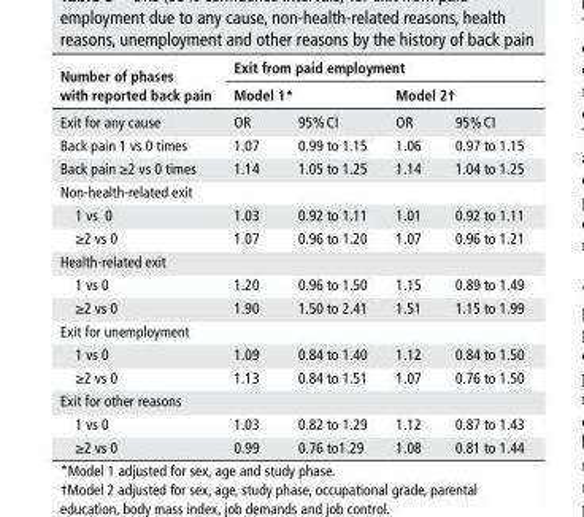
<table><thead><tr><td rowspan="3">number of phases with reported back pain Exit for any cause</td><td colspan="4">exit from paid employment</td></tr><tr><td colspan="2">Model 1*</td><td colspan="2">Model 2†</td></tr><tr><td>OR</td><td>95% CI</td><td>OR</td><td>95% CI</td></tr></thead><tbody><tr><td>Back pain 1 vs 0 times</td><td>1.07</td><td>0.99 to 1.15</td><td>1.06</td><td>0.97 to 1.15</td></tr><tr><td>Back pain ≥2 vs 0 times</td><td>1.14</td><td>1.05 to 1.25</td><td>1.14</td><td>1.04 to 1.25</td></tr><tr><td colspan="5">Non-health-related exit</td></tr><tr><td>1 vs 0</td><td>1.03</td><td>0.92 to 1.11</td><td>1.01</td><td>0.92 to 1.11</td></tr><tr><td>≥2 vs 0</td><td>1.07</td><td>0.96 to 1.20</td><td>1.07</td><td>0.96 to 1.21</td></tr><tr><td colspan="5">Health-related exit</td></tr><tr><td>1 vs 0</td><td>1.20</td><td>0.96 to 1.50</td><td>1.15</td><td>0.89 to 1.49</td></tr><tr><td>≥2 vs 0</td><td>1.90</td><td>1.50 to 2.41</td><td>1.51</td><td>1.15 to 1.99</td></tr><tr><td colspan="5">Exit for unemployment</td></tr><tr><td>1 vs 0</td><td>1.09</td><td>0.84 to 1.40</td><td>1.12</td><td>0.84 to 1.50</td></tr><tr><td>≥2 vs 0</td><td>1.13</td><td>0.84 to 1.51</td><td>1.07</td><td>0.76 to 1.50</td></tr><tr><td colspan="5">Exit for other reasons</td></tr><tr><td>1 vs 0</td><td>1.03</td><td>0.82 to 1.29</td><td>1.12</td><td>0.87 to 1.43</td></tr><tr><td>≥2 vs 0</td><td>0.99</td><td>0.76 to1.29</td><td>1.08</td><td>0.81 to 1.44</td></tr></tbody></table>